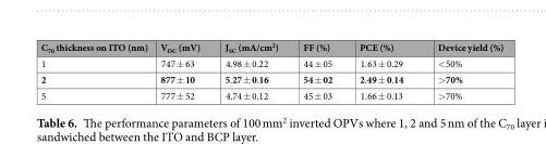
<table><thead><tr><td>C<sub>70</sub> thickness on ITO (nm)</td><td>V<sub>OC</sub> (mV)</td><td>J<sub>SC</sub> (mA/cm<sup>2</sup>)</td><td>FF (%)</td><td>PCE (%)</td><td>Device yield (%)</td></tr></thead><tbody><tr><td>1</td><td>747 ± 63</td><td>4.98 ± 0.22</td><td>44 ± 05</td><td>1.63 ± 0.29</td><td>&lt;50%</td></tr><tr><td>2</td><td>877 ± 10</td><td>5.27 ± 0.16</td><td>54 ± 02</td><td>2.49 ± 0.14</td><td>&gt;70%</td></tr><tr><td>5</td><td>777 ± 52</td><td>4.74 ± 0.12</td><td>45 ± 03</td><td>1.66 ± 0.13</td><td>&gt;70%</td></tr></tbody></table>